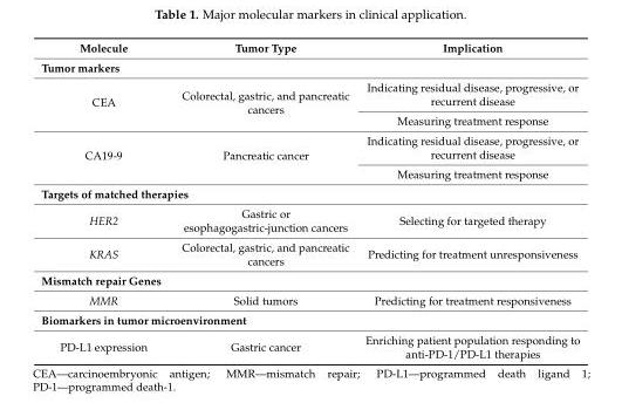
<table><thead><tr><td>Molecule</td><td>Tumor Type</td><td>Implication</td></tr></thead><tbody><tr><td colspan="3">Tumor markers</td></tr><tr><td rowspan="2">CEA</td><td rowspan="2">Colorectal, gastric, and pancreatic cancers</td><td>Indicating residual disease, progressive, or recurrent disease</td></tr><tr><td>Measuring treatment response</td></tr><tr><td rowspan="2">CA19-9</td><td rowspan="2">Pancreatic cancer</td><td>Indicating residual disease, progressive, or recurrent disease</td></tr><tr><td>Measuring treatment response</td></tr><tr><td colspan="3">Targets of matched therapies</td></tr><tr><td>HER2</td><td>Gastric or esophagogastric-junction cancers</td><td>Selecting for targeted therapy</td></tr><tr><td>KRAS</td><td>Colorectal, gastric, and pancreatic cancers</td><td>Predicting for treatment unresponsiveness</td></tr><tr><td colspan="3">Mismatch repair Genes</td></tr><tr><td>MMR</td><td>Solid tumors</td><td>Predicting for treatment responsiveness</td></tr><tr><td colspan="3">Biomarkers in tumor microenvironment</td></tr><tr><td>PD-L1 expression</td><td>Gastric cancer</td><td>Enriching patient population responding to anti-PD-1/PD-L1 therapies</td></tr></tbody></table>